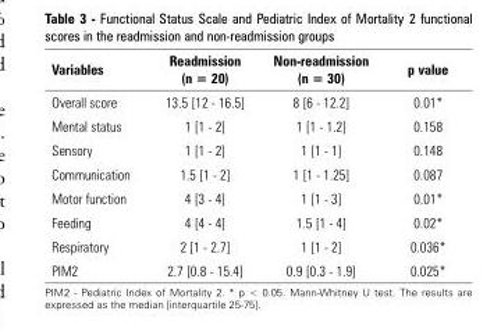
<table><thead><tr><td>Variables</td><td>Readmission (n = 20)</td><td>Non-readmission (n = 30)</td><td>p value</td></tr></thead><tbody><tr><td>Overall score</td><td>13.5 [12 - 16.5]</td><td>8 [6 - 12.2]</td><td>0.01*</td></tr><tr><td>Mental status</td><td>1 [1 - 2]</td><td>1 [1 - 1.2]</td><td>0.158</td></tr><tr><td>Sensory</td><td>1 [1 - 2]</td><td>1 [1 - 1]</td><td>0.148</td></tr><tr><td>Communication</td><td>1.5 [1 - 2]</td><td>1 [1 - 1.25]</td><td>0.087</td></tr><tr><td>Motor function</td><td>4 [3 - 4]</td><td>1 [1 - 3]</td><td>0.01*</td></tr><tr><td>Feeding</td><td>4 [4 - 4]</td><td>1.5 [1 - 4]</td><td>0.02*</td></tr><tr><td>Respiratory</td><td>2 [1 - 2.7]</td><td>1 [1 - 2]</td><td>0.036*</td></tr><tr><td>PIM2</td><td>2.7 [0.8 - 15.4]</td><td>0.9 [0.3 - 1.9]</td><td>0.025*</td></tr></tbody></table>